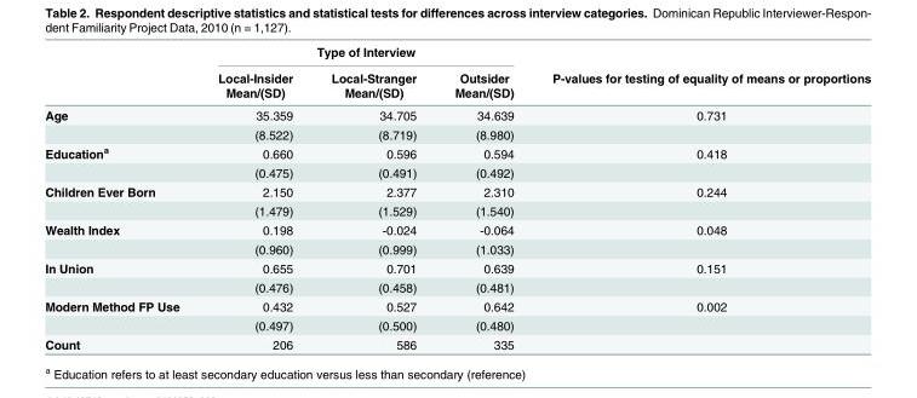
<table><thead><tr><td rowspan="3"></td><td colspan="3">Type of Interview</td><td rowspan="3">P-values for testing of equality of means or proportions</td></tr><tr><td rowspan="2">Local-Insider Mean/(SD)</td><td rowspan="2">Local-Stranger Mean/(SD)</td><td rowspan="2">Outsider Mean/(SD)</td></tr><tr></tr></thead><tbody><tr><td rowspan="2">Age</td><td>35.359</td><td>34.705</td><td>34.639</td><td>0.731</td></tr><tr><td>(8.522)</td><td>(8.719)</td><td>(8.980)</td><td></td></tr><tr><td rowspan="2">Education<sup>a</sup></td><td>0.660</td><td>0.596</td><td>0.594</td><td>0.418</td></tr><tr><td>(0.475)</td><td>(0.491)</td><td>(0.492)</td><td></td></tr><tr><td rowspan="2">Children Ever Born</td><td>2.150</td><td>2.377</td><td>2.310</td><td>0.244</td></tr><tr><td>(1.479)</td><td>(1.529)</td><td>(1.540)</td><td></td></tr><tr><td rowspan="2">Wealth Index</td><td>0.198</td><td>-0.024</td><td>-0.064</td><td>0.048</td></tr><tr><td>(0.960)</td><td>(0.999)</td><td>(1.033)</td><td></td></tr><tr><td rowspan="2">In Union</td><td>0.655</td><td>0.701</td><td>0.639</td><td>0.151</td></tr><tr><td>(0.476)</td><td>(0.458)</td><td>(0.481)</td><td></td></tr><tr><td rowspan="2">Modern Method FP Use</td><td>0.432</td><td>0.527</td><td>0.642</td><td>0.002</td></tr><tr><td>(0.497)</td><td>(0.500)</td><td>(0.480)</td><td></td></tr><tr><td>Count</td><td>206</td><td>586</td><td>335</td><td></td></tr></tbody></table>